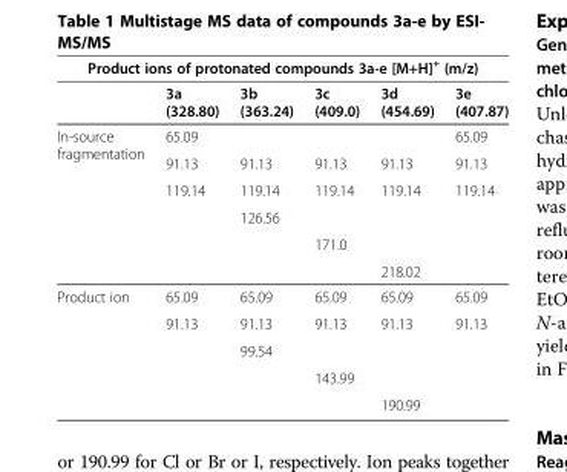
<table><thead><tr><td colspan="6">Product ions of protonated compounds 3a-e [M+H]<sup>+</sup> (m/z)</td></tr><tr><td></td><td>3a (328.80)</td><td>3b (363.24)</td><td>3c (409.0)</td><td>3d (454.69)</td><td>3e (407.87)</td></tr></thead><tbody><tr><td rowspan="6">In-source fragmentation</td><td>65.09</td><td></td><td></td><td></td><td>65.09</td></tr><tr><td>91.13</td><td>91.13</td><td>91.13</td><td>91.13</td><td>91.13</td></tr><tr><td>119.14</td><td>119.14</td><td>119.14</td><td>119.14</td><td>119.14</td></tr><tr><td></td><td>126.56</td><td></td><td></td><td></td></tr><tr><td></td><td></td><td>171.0</td><td></td><td></td></tr><tr><td></td><td></td><td></td><td>218.02</td><td></td></tr><tr><td rowspan="5">Product ion</td><td>65.09</td><td>65.09</td><td>65.09</td><td>65.09</td><td>65.09</td></tr><tr><td>91.13</td><td>91.13</td><td>91.13</td><td>91.13</td><td>91.13</td></tr><tr><td></td><td>99.54</td><td></td><td></td><td></td></tr><tr><td></td><td></td><td>143.99</td><td></td><td></td></tr><tr><td></td><td></td><td></td><td>190.99</td><td></td></tr></tbody></table>